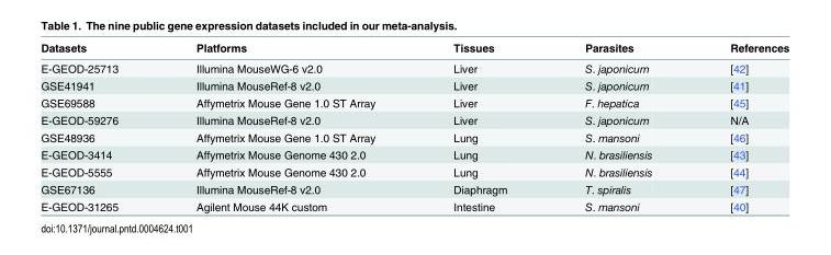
<table><thead><tr><td>Datasets</td><td>Platforms</td><td>Tissues</td><td>Parasites</td><td>References</td></tr></thead><tbody><tr><td>E-GEOD-25713</td><td>Illumina MouseWG-6 v2.0</td><td>Liver</td><td>S. japonicum</td><td>[42]</td></tr><tr><td>GSE41941</td><td>Illumina MouseRef-8 v2.0</td><td>Liver</td><td>S. japonicum</td><td>[41]</td></tr><tr><td>GSE69588</td><td>Affymetrix Mouse Gene 1.0 ST Array</td><td>Liver</td><td>F. hepatica</td><td>[45]</td></tr><tr><td>E-GEOD-59276</td><td>Illumina MouseRef-8 v2.0</td><td>Liver</td><td>S. japonicum</td><td>N/A</td></tr><tr><td>GSE48936</td><td>Affymetrix Mouse Gene 1.0 ST Array</td><td>Lung</td><td>S. mansoni</td><td>[46]</td></tr><tr><td>E-GEOD-3414</td><td>Affymetrix Mouse Genome 430 2.0</td><td>Lung</td><td>N. brasiliensis</td><td>[43]</td></tr><tr><td>E-GEOD-5555</td><td>Affymetrix Mouse Genome 430 2.0</td><td>Lung</td><td>N. brasiliensis</td><td>[44]</td></tr><tr><td>GSE67136</td><td>Illumina MouseRef-8 v2.0</td><td>Diaphragm</td><td>T. spiralis</td><td>[47]</td></tr><tr><td>E-GEOD-31265</td><td>Agilent Mouse 44K custom</td><td>Intestine</td><td>S. mansoni</td><td>[40]</td></tr></tbody></table>